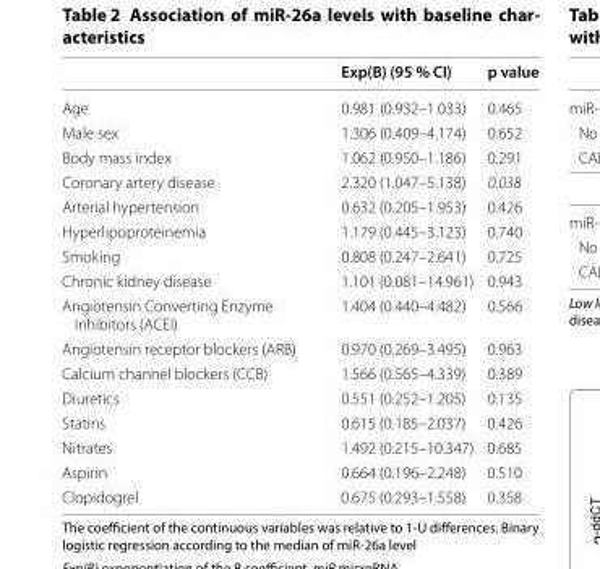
<table><thead><tr><td></td><td>Exp(B) (95 % CI)</td><td>p value</td></tr></thead><tbody><tr><td>Age</td><td>0.981 (0.932–1.033)</td><td>0.465</td></tr><tr><td>Male sex</td><td>1.306 (0.409–4.174)</td><td>0.652</td></tr><tr><td>Body mass index</td><td>1.062 (0.950–1.186)</td><td>0.291</td></tr><tr><td>Coronary artery disease</td><td>2.320 (1.047–5.138)</td><td>0.038</td></tr><tr><td>Arterial hypertension</td><td>0.632 (0.205–1.953)</td><td>0.426</td></tr><tr><td>Hyperlipoproteinemia</td><td>1.179 (0.445–3.123)</td><td>0.740</td></tr><tr><td>Smoking</td><td>0.808 (0.247–2.641)</td><td>0.725</td></tr><tr><td>Chronic kidney disease</td><td>1.101 (0.081–14.961)</td><td>0.943</td></tr><tr><td>Angiotensin Converting Enzyme Inhibitors (ACEI)</td><td>1.404 (0.440–4.482)</td><td>0.566</td></tr><tr><td>Angiotensin receptor blockers (ARB)</td><td>0.970 (0.269–3.495)</td><td>0.963</td></tr><tr><td>Calcium channel blockers (CCB)</td><td>1.566 (0.565–4.339)</td><td>0.389</td></tr><tr><td>Diuretics</td><td>0.551 (0.252–1.205)</td><td>0.135</td></tr><tr><td>Statins</td><td>0.615 (0.185–2.037)</td><td>0.426</td></tr><tr><td>Nitrates</td><td>1.492 (0.215–10.347)</td><td>0.685</td></tr><tr><td>Aspirin</td><td>0.664 (0.196–2.248)</td><td>0.510</td></tr><tr><td>Clopidogrel</td><td>0.675 (0.293–1.558)</td><td>0.358</td></tr></tbody></table>